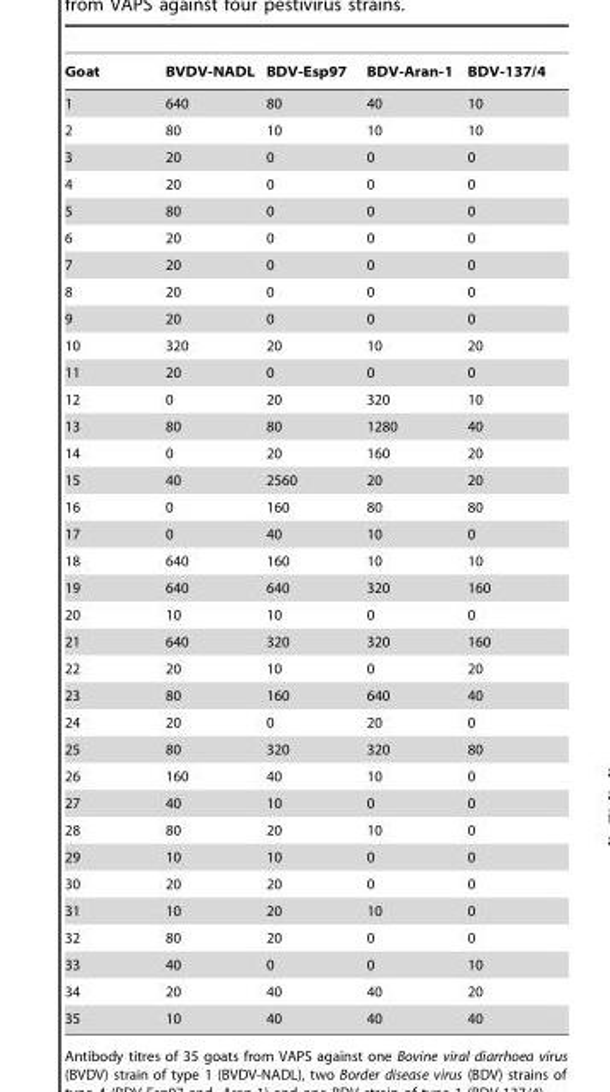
<table><thead><tr><td>Goat</td><td>BVDV-NADL</td><td>BDV-Esp97</td><td>BDV-Aran-1</td><td>BDV-137/4</td></tr></thead><tbody><tr><td>1</td><td>640</td><td>80</td><td>40</td><td>10</td></tr><tr><td>2</td><td>80</td><td>10</td><td>10</td><td>10</td></tr><tr><td>3</td><td>20</td><td>0</td><td>0</td><td>0</td></tr><tr><td>4</td><td>20</td><td>0</td><td>0</td><td>0</td></tr><tr><td>5</td><td>80</td><td>0</td><td>0</td><td>0</td></tr><tr><td>6</td><td>20</td><td>0</td><td>0</td><td>0</td></tr><tr><td>7</td><td>20</td><td>0</td><td>0</td><td>0</td></tr><tr><td>8</td><td>20</td><td>0</td><td>0</td><td>0</td></tr><tr><td>9</td><td>20</td><td>0</td><td>0</td><td>0</td></tr><tr><td>10</td><td>320</td><td>20</td><td>10</td><td>20</td></tr><tr><td>11</td><td>20</td><td>0</td><td>0</td><td>0</td></tr><tr><td>12</td><td>0</td><td>20</td><td>320</td><td>10</td></tr><tr><td>13</td><td>80</td><td>80</td><td>1280</td><td>40</td></tr><tr><td>14</td><td>0</td><td>20</td><td>160</td><td>20</td></tr><tr><td>15</td><td>40</td><td>2560</td><td>20</td><td>20</td></tr><tr><td>16</td><td>0</td><td>160</td><td>80</td><td>80</td></tr><tr><td>17</td><td>0</td><td>40</td><td>10</td><td>0</td></tr><tr><td>18</td><td>640</td><td>160</td><td>10</td><td>10</td></tr><tr><td>19</td><td>640</td><td>640</td><td>320</td><td>160</td></tr><tr><td>20</td><td>10</td><td>10</td><td>0</td><td>0</td></tr><tr><td>21</td><td>640</td><td>320</td><td>320</td><td>160</td></tr><tr><td>22</td><td>20</td><td>10</td><td>0</td><td>20</td></tr><tr><td>23</td><td>80</td><td>160</td><td>640</td><td>40</td></tr><tr><td>24</td><td>20</td><td>0</td><td>20</td><td>0</td></tr><tr><td>25</td><td>80</td><td>320</td><td>320</td><td>80</td></tr><tr><td>26</td><td>160</td><td>40</td><td>10</td><td>0</td></tr><tr><td>27</td><td>40</td><td>10</td><td>0</td><td>0</td></tr><tr><td>28</td><td>80</td><td>20</td><td>10</td><td>0</td></tr><tr><td>29</td><td>10</td><td>10</td><td>0</td><td>0</td></tr><tr><td>30</td><td>20</td><td>20</td><td>0</td><td>0</td></tr><tr><td>31</td><td>10</td><td>20</td><td>10</td><td>0</td></tr><tr><td>32</td><td>80</td><td>20</td><td>0</td><td>0</td></tr><tr><td>33</td><td>40</td><td>0</td><td>0</td><td>10</td></tr><tr><td>34</td><td>20</td><td>40</td><td>40</td><td>20</td></tr><tr><td>35</td><td>10</td><td>40</td><td>40</td><td>40</td></tr></tbody></table>